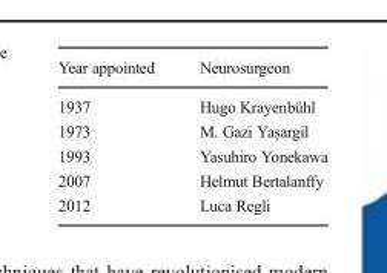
<table><thead><tr><td>Year appointed</td><td>Neurosurgeon</td></tr></thead><tbody><tr><td>1937</td><td>Hugo Krayenbühl</td></tr><tr><td>1973</td><td>M. Gazi Yaşargil</td></tr><tr><td>1993</td><td>Yasuhiro Yonekawa</td></tr><tr><td>2007</td><td>Helmut Bertalanffy</td></tr><tr><td>2012</td><td>Luca Regli</td></tr></tbody></table>